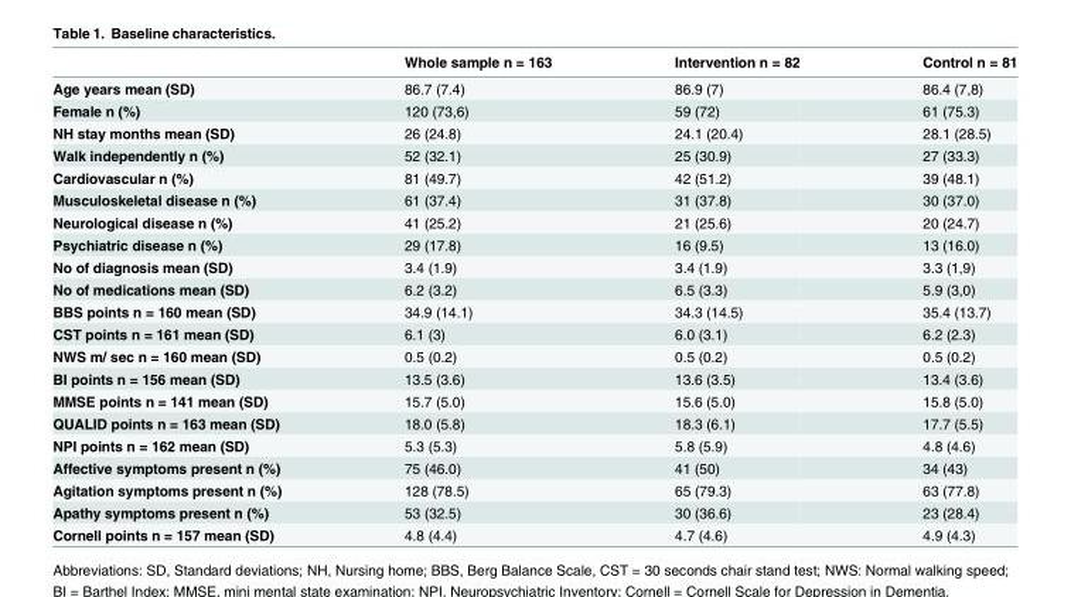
<table><thead><tr><td></td><td>Whole sample n = 163</td><td>Intervention n = 82</td><td>Control n = 81</td></tr></thead><tbody><tr><td>Age years mean (SD)</td><td>86.7 (7.4)</td><td>86.9 (7)</td><td>86.4 (7,8)</td></tr><tr><td>Female n (%)</td><td>120 (73,6)</td><td>59 (72)</td><td>61 (75.3)</td></tr><tr><td>NH stay months mean (SD)</td><td>26 (24.8)</td><td>24.1 (20.4)</td><td>28.1 (28.5)</td></tr><tr><td>Walk independently n (%)</td><td>52 (32.1)</td><td>25 (30.9)</td><td>27 (33.3)</td></tr><tr><td>Cardiovascular n (%)</td><td>81 (49.7)</td><td>42 (51.2)</td><td>39 (48.1)</td></tr><tr><td>Musculoskeletal disease n (%)</td><td>61 (37.4)</td><td>31 (37.8)</td><td>30 (37.0)</td></tr><tr><td>Neurological disease n (%)</td><td>41 (25.2)</td><td>21 (25.6)</td><td>20 (24.7)</td></tr><tr><td>Psychiatric disease n (%)</td><td>29 (17.8)</td><td>16 (9.5)</td><td>13 (16.0)</td></tr><tr><td>No of diagnosis mean (SD)</td><td>3.4 (1.9)</td><td>3.4 (1.9)</td><td>3.3 (1,9)</td></tr><tr><td>No of medications mean (SD)</td><td>6.2 (3.2)</td><td>6.5 (3.3)</td><td>5.9 (3,0)</td></tr><tr><td>BBS points n = 160 mean (SD)</td><td>34.9 (14.1)</td><td>34.3 (14.5)</td><td>35.4 (13.7)</td></tr><tr><td>CST points n = 161 mean (SD)</td><td>6.1 (3)</td><td>6.0 (3.1)</td><td>6.2 (2.3)</td></tr><tr><td>NWS m/ sec n = 160 mean (SD)</td><td>0.5 (0.2)</td><td>0.5 (0.2)</td><td>0.5 (0.2)</td></tr><tr><td>BI points n = 156 mean (SD)</td><td>13.5 (3.6)</td><td>13.6 (3.5)</td><td>13.4 (3.6)</td></tr><tr><td>MMSE points n = 141 mean (SD)</td><td>15.7 (5.0)</td><td>15.6 (5.0)</td><td>15.8 (5.0)</td></tr><tr><td>QUALID points n = 163 mean (SD)</td><td>18.0 (5.8)</td><td>18.3 (6.1)</td><td>17.7 (5.5)</td></tr><tr><td>NPI points n = 162 mean (SD)</td><td>5.3 (5.3)</td><td>5.8 (5.9)</td><td>4.8 (4.6)</td></tr><tr><td>Affective symptoms present n (%)</td><td>75 (46.0)</td><td>41 (50)</td><td>34 (43)</td></tr><tr><td>Agitation symptoms present n (%)</td><td>128 (78.5)</td><td>65 (79.3)</td><td>63 (77.8)</td></tr><tr><td>Apathy symptoms present n (%)</td><td>53 (32.5)</td><td>30 (36.6)</td><td>23 (28.4)</td></tr><tr><td>Cornell points n = 157 mean (SD)</td><td>4.8 (4.4)</td><td>4.7 (4.6)</td><td>4.9 (4.3)</td></tr></tbody></table>